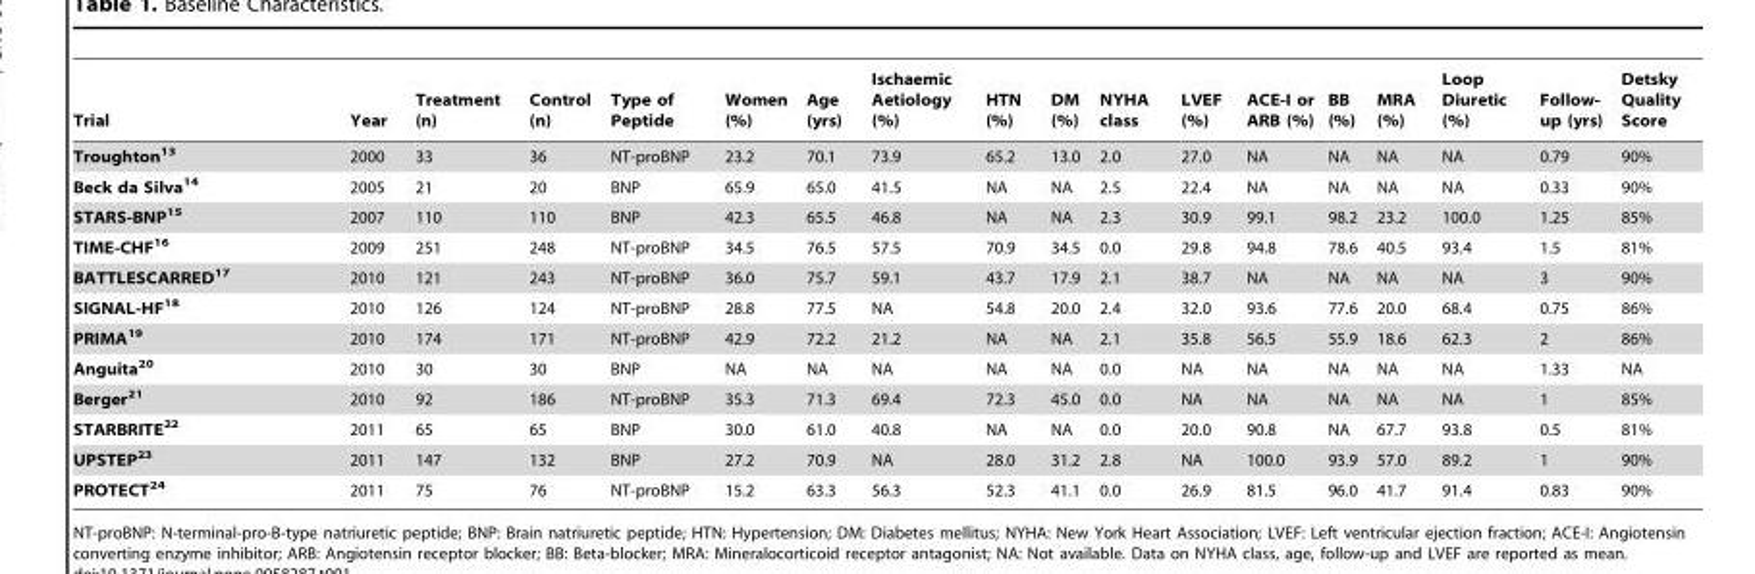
<table><thead><tr><td>Trial</td><td>Year</td><td>Treatment (n)</td><td>Control (n)</td><td>Type of Peptide</td><td>Women (%)</td><td>Age (yrs)</td><td>Ischaemic Aetiology (%)</td><td>HTN (%)</td><td>DM (%)</td><td>NYHA class</td><td>LVEF (%)</td><td>ACE-I or ARB (%)</td><td>BB (%)</td><td>MRA (%)</td><td>Loop Diuretic (%)</td><td>Follow- up (yrs)</td><td>Detsky Quality Score</td></tr></thead><tbody><tr><td>Troughton<sup>13</sup></td><td>2000</td><td>33</td><td>36</td><td>NT-proBNP</td><td>23.2</td><td>70.1</td><td>73.9</td><td>65.2</td><td>13.0</td><td>2.0</td><td>27.0</td><td>NA</td><td>NA</td><td>NA</td><td>NA</td><td>0.79</td><td>90%</td></tr><tr><td>Beck da Silva<sup>14</sup></td><td>2005</td><td>21</td><td>20</td><td>BNP</td><td>65.9</td><td>65.0</td><td>41.5</td><td>NA</td><td>NA</td><td>2.5</td><td>22.4</td><td>NA</td><td>NA</td><td>NA</td><td>NA</td><td>0.33</td><td>90%</td></tr><tr><td>STARS-BNP<sup>15</sup></td><td>2007</td><td>110</td><td>110</td><td>BNP</td><td>42.3</td><td>65.5</td><td>46.8</td><td>NA</td><td>NA</td><td>2.3</td><td>30.9</td><td>99.1</td><td>98.2</td><td>23.2</td><td>100.0</td><td>1.25</td><td>85%</td></tr><tr><td>TIME-CHF<sup>16</sup></td><td>2009</td><td>251</td><td>248</td><td>NT-proBNP</td><td>34.5</td><td>76.5</td><td>57.5</td><td>70.9</td><td>34.5</td><td>0.0</td><td>29.8</td><td>94.8</td><td>78.6</td><td>40.5</td><td>93.4</td><td>1.5</td><td>81%</td></tr><tr><td>BATTLESCARRED<sup>17</sup></td><td>2010</td><td>121</td><td>243</td><td>NT-proBNP</td><td>36.0</td><td>75.7</td><td>59.1</td><td>43.7</td><td>17.9</td><td>2.1</td><td>38.7</td><td>NA</td><td>NA</td><td>NA</td><td>NA</td><td>3</td><td>90%</td></tr><tr><td>SIGNAL-HF<sup>18</sup></td><td>2010</td><td>126</td><td>124</td><td>NT-proBNP</td><td>28.8</td><td>77.5</td><td>NA</td><td>54.8</td><td>20.0</td><td>2.4</td><td>32.0</td><td>93.6</td><td>77.6</td><td>20.0</td><td>68.4</td><td>0.75</td><td>86%</td></tr><tr><td>PRIMA<sup>19</sup></td><td>2010</td><td>174</td><td>171</td><td>NT-proBNP</td><td>42.9</td><td>72.2</td><td>21.2</td><td>NA</td><td>NA</td><td>2.1</td><td>35.8</td><td>56.5</td><td>55.9</td><td>18.6</td><td>62.3</td><td>2</td><td>86%</td></tr><tr><td>Anguita<sup>20</sup></td><td>2010</td><td>30</td><td>30</td><td>BNP</td><td>NA</td><td>NA</td><td>NA</td><td>NA</td><td>NA</td><td>0.0</td><td>NA</td><td>NA</td><td>NA</td><td>NA</td><td>NA</td><td>1.33</td><td>NA</td></tr><tr><td>Berger<sup>21</sup></td><td>2010</td><td>92</td><td>186</td><td>NT-proBNP</td><td>35.3</td><td>71.3</td><td>69.4</td><td>72.3</td><td>45.0</td><td>0.0</td><td>NA</td><td>NA</td><td>NA</td><td>NA</td><td>NA</td><td>1</td><td>85%</td></tr><tr><td>STARBRITE<sup>22</sup></td><td>2011</td><td>65</td><td>65</td><td>BNP</td><td>30.0</td><td>61.0</td><td>40.8</td><td>NA</td><td>NA</td><td>0.0</td><td>20.0</td><td>90.8</td><td>NA</td><td>67.7</td><td>93.8</td><td>0.5</td><td>81%</td></tr><tr><td>UPSTEP<sup>23</sup></td><td>2011</td><td>147</td><td>132</td><td>BNP</td><td>27.2</td><td>70.9</td><td>NA</td><td>28.0</td><td>31.2</td><td>2.8</td><td>NA</td><td>100.0</td><td>93.9</td><td>57.0</td><td>89.2</td><td>1</td><td>90%</td></tr><tr><td>PROTECT<sup>24</sup></td><td>2011</td><td>75</td><td>76</td><td>NT-proBNP</td><td>15.2</td><td>63.3</td><td>56.3</td><td>52.3</td><td>41.1</td><td>0.0</td><td>26.9</td><td>81.5</td><td>96.0</td><td>41.7</td><td>91.4</td><td>0.83</td><td>90%</td></tr></tbody></table>